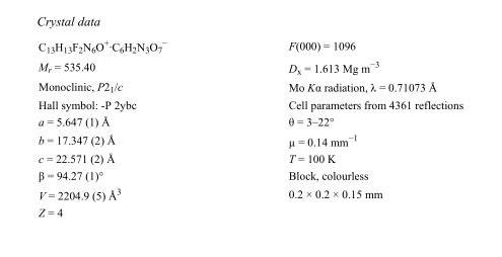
<table><tbody><tr><td>C<sub>13</sub>H<sub>13</sub>F<sub>2</sub>N<sub>6</sub>O<sup>+</sup>·C<sub>6</sub>H<sub>2</sub>N<sub>3</sub>O<sub>7</sub> <sup>−</sup></td><td>F(000) = 1096</td></tr><tr><td>M<sub>r</sub> = 535.40</td><td>D<sub>x</sub> = 1.613 Mg m<sup>−3</sup></td></tr><tr><td>Monoclinic, P2<sub>1</sub>/c</td><td>Mo Kα radiation, λ = 0.71073 Å</td></tr><tr><td>Hall symbol: -P 2ybc</td><td>Cell parameters from 4361 reflections</td></tr><tr><td>a = 5.647 (1) Å</td><td>θ = 3–22°</td></tr><tr><td>b = 17.347 (2) Å</td><td>µ = 0.14 mm<sup>−1</sup></td></tr><tr><td>c = 22.571 (2) Å</td><td>T = 100 K</td></tr><tr><td>β = 94.27 (1)°</td><td>Block, colourless</td></tr><tr><td>V = 2204.9 (5) Å<sup>3</sup></td><td>0.2 × 0.2 × 0.15 mm</td></tr><tr><td>Z = 4</td><td></td></tr></tbody></table>